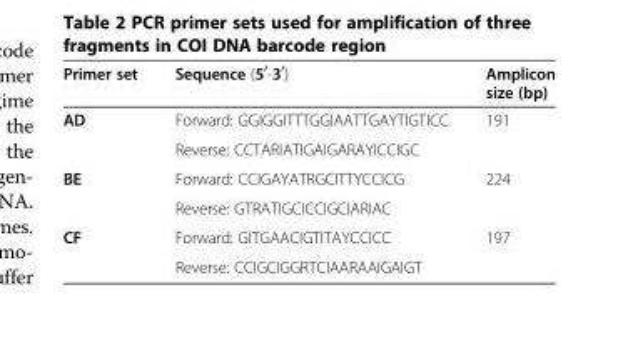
<table><thead><tr><td>Primer set</td><td>Sequence (5<sup>′</sup>-3<sup>′</sup>)</td><td>Amplicon size (bp)</td></tr></thead><tbody><tr><td rowspan="2">AD</td><td>Forward: GGIGGITTTGGIAATTGAYTIGTICC</td><td rowspan="2">191</td></tr><tr><td>Reverse: CCTARIATIGAIGARAYICCIGC</td></tr><tr><td rowspan="2">BE</td><td>Forward: CCIGAYATRGCITTYCCICG</td><td rowspan="2">224</td></tr><tr><td>Reverse: GTRATIGCICCIGCIARIAC</td></tr><tr><td rowspan="2">CF</td><td>Forward: GITGAACIGTITAYCCICC</td><td>197</td></tr><tr><td>Reverse: CCIGCIGGRTCIAARAAIGAIGT</td><td></td></tr></tbody></table>